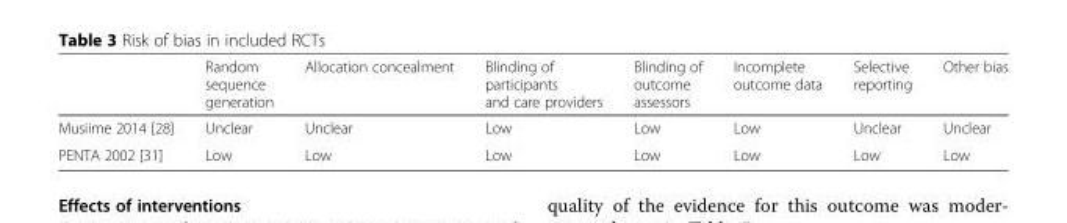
<table><thead><tr><td></td><td>Random sequence generation</td><td>Allocation concealment</td><td>Blinding of participants and care providers</td><td>Blinding of outcome assessors</td><td>Incomplete outcome data</td><td>Selective reporting</td><td>Other bias</td></tr></thead><tbody><tr><td>Musiime 2014 [28]</td><td>Unclear</td><td>Unclear</td><td>Low</td><td>Low</td><td>Low</td><td>Unclear</td><td>Unclear</td></tr><tr><td>PENTA 2002 [31]</td><td>Low</td><td>Low</td><td>Low</td><td>Low</td><td>Low</td><td>Low</td><td>Low</td></tr></tbody></table>